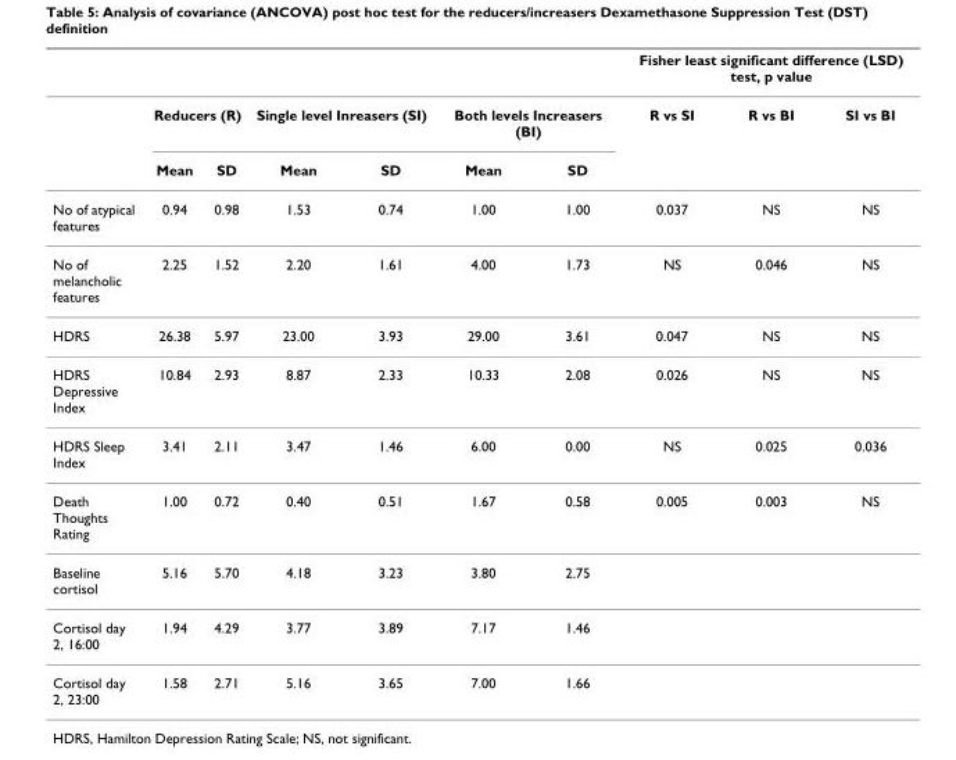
<table><thead><tr><td rowspan="2"></td><td></td><td></td><td></td><td></td><td></td><td></td><td colspan="3">Fisher least significant difference (LSD) test, p value</td></tr><tr><td colspan="2">Reducers (R)</td><td colspan="2">Single level Inreasers (SI)</td><td colspan="2">Both levels Increasers (BI)</td><td>R vs SI</td><td>R vs BI</td><td>SI vs BI</td></tr></thead><tbody><tr><td></td><td>Mean</td><td>SD</td><td>Mean</td><td>SD</td><td>Mean</td><td>SD</td><td></td><td></td><td></td></tr><tr><td>No of atypical features</td><td>0.94</td><td>0.98</td><td>1.53</td><td>0.74</td><td>1.00</td><td>1.00</td><td>0.037</td><td>NS</td><td>NS</td></tr><tr><td>No of melancholic features</td><td>2.25</td><td>1.52</td><td>2.20</td><td>1.61</td><td>4.00</td><td>1.73</td><td>NS</td><td>0.046</td><td>NS</td></tr><tr><td>HDRS</td><td>26.38</td><td>5.97</td><td>23.00</td><td>3.93</td><td>29.00</td><td>3.61</td><td>0.047</td><td>NS</td><td>NS</td></tr><tr><td>HDRS Depressive Index</td><td>10.84</td><td>2.93</td><td>8.87</td><td>2.33</td><td>10.33</td><td>2.08</td><td>0.026</td><td>NS</td><td>NS</td></tr><tr><td>HDRS Sleep Index</td><td>3.41</td><td>2.11</td><td>3.47</td><td>1.46</td><td>6.00</td><td>0.00</td><td>NS</td><td>0.025</td><td>0.036</td></tr><tr><td>Death Thoughts Rating</td><td>1.00</td><td>0.72</td><td>0.40</td><td>0.51</td><td>1.67</td><td>0.58</td><td>0.005</td><td>0.003</td><td>NS</td></tr><tr><td>Baseline cortisol</td><td>5.16</td><td>5.70</td><td>4.18</td><td>3.23</td><td>3.80</td><td>2.75</td><td></td><td></td><td></td></tr><tr><td>Cortisol day 2, 16:00</td><td>1.94</td><td>4.29</td><td>3.77</td><td>3.89</td><td>7.17</td><td>1.46</td><td></td><td></td><td></td></tr><tr><td>Cortisol day 2, 23:00</td><td>1.58</td><td>2.71</td><td>5.16</td><td>3.65</td><td>7.00</td><td>1.66</td><td></td><td></td><td></td></tr></tbody></table>